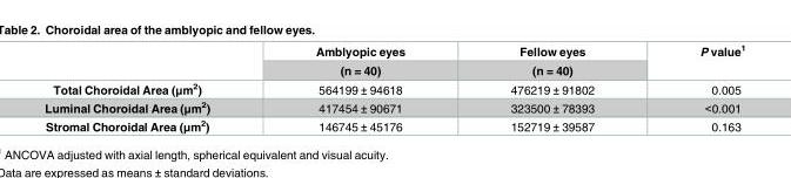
<table><thead><tr><td rowspan="2"></td><td rowspan="2">Amblyopic eyes (n = 40)</td><td rowspan="2">Fellow eyes (n = 40)</td><td rowspan="2">P value<sup>1</sup></td></tr><tr></tr></thead><tbody><tr><td>Total Choroidal Area (μm<sup>2</sup>)</td><td>564199 ± 94618</td><td>476219 ± 91802</td><td>0.005</td></tr><tr><td>Luminal Choroidal Area (μm<sup>2</sup>)</td><td>417454 ± 90671</td><td>323500 ± 78393</td><td>&lt;0.001</td></tr><tr><td>Stromal Choroidal Area (μm<sup>2</sup>)</td><td>146745 ± 45176</td><td>152719 ± 39587</td><td>0.163</td></tr></tbody></table>